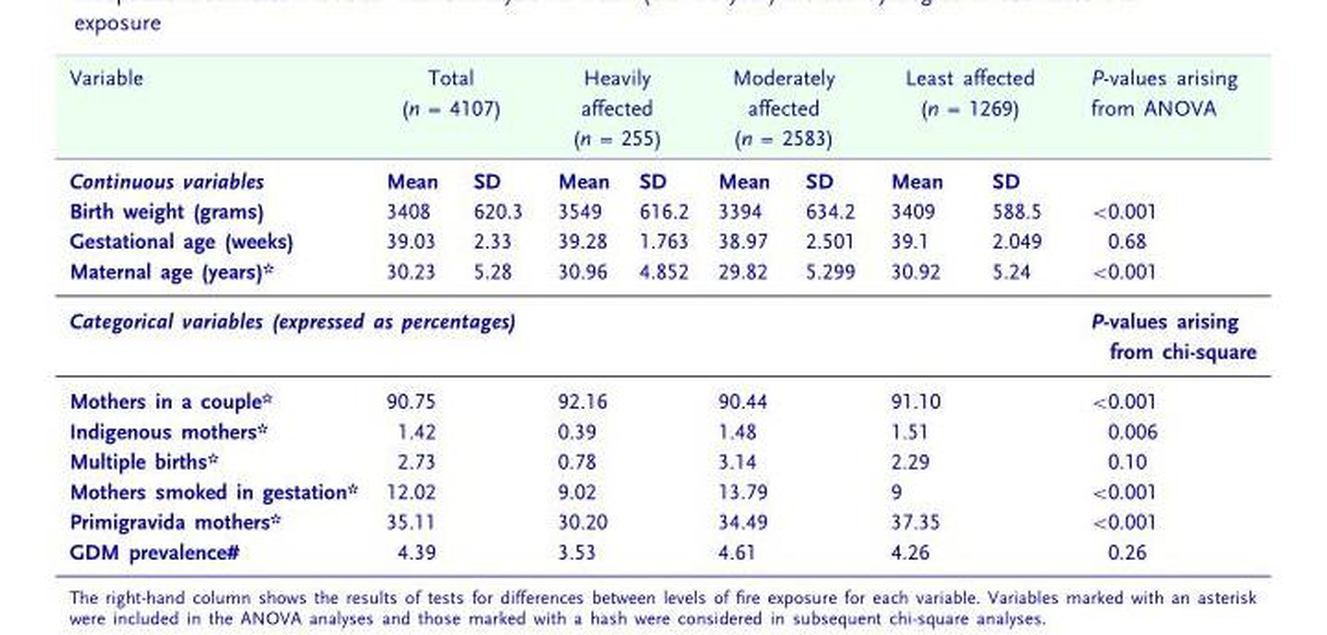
<table><thead><tr><td rowspan="2">Variable Continuous variables</td><td colspan="2">Total (n = 4107)</td><td colspan="2">Heavily affected (n = 255)</td><td colspan="2">Moderately affected (n = 2583)</td><td colspan="2">Least affected (n = 1269)</td><td rowspan="2">P-values arising from ANOVA</td></tr><tr><td>Mean</td><td>SD</td><td>Mean</td><td>SD</td><td>Mean</td><td>SD</td><td>Mean</td><td>SD</td></tr></thead><tbody><tr><td>Birth weight (grams)</td><td>3408</td><td>620.3</td><td>3549</td><td>616.2</td><td>3394</td><td>634.2</td><td>3409</td><td>588.5</td><td>&lt;0.001</td></tr><tr><td>Gestational age (weeks)</td><td>39.03</td><td>2.33</td><td>39.28</td><td>1.763</td><td>38.97</td><td>2.501</td><td>39.1</td><td>2.049</td><td>0.68</td></tr><tr><td>Maternal age (years)*</td><td>30.23</td><td>5.28</td><td>30.96</td><td>4.852</td><td>29.82</td><td>5.299</td><td>30.92</td><td>5.24</td><td>&lt;0.001</td></tr><tr><td colspan="9">Categorical variables (expressed as percentages)</td><td>P-values arising from chi-square</td></tr><tr><td>Mothers in a couple*</td><td>90.75</td><td></td><td colspan="2">92.16</td><td colspan="2">90.44</td><td colspan="2">91.10</td><td>&lt;0.001</td></tr><tr><td>Indigenous mothers*</td><td>1.42</td><td></td><td colspan="2">0.39</td><td colspan="2">1.48</td><td colspan="2">1.51</td><td>0.006</td></tr><tr><td>Multiple births*</td><td>2.73</td><td></td><td colspan="2">0.78</td><td colspan="2">3.14</td><td colspan="2">2.29</td><td>0.10</td></tr><tr><td>Mothers smoked in gestation*</td><td>12.02</td><td></td><td colspan="2">9.02</td><td colspan="2">13.79</td><td colspan="2">9</td><td>&lt;0.001</td></tr><tr><td>Primigravida mothers*</td><td>35.11</td><td></td><td colspan="2">30.20</td><td colspan="2">34.49</td><td colspan="2">37.35</td><td>&lt;0.001</td></tr><tr><td>GDM prevalence#</td><td>4.39</td><td></td><td colspan="2">3.53</td><td colspan="2">4.61</td><td colspan="2">4.26</td><td>0.26</td></tr></tbody></table>